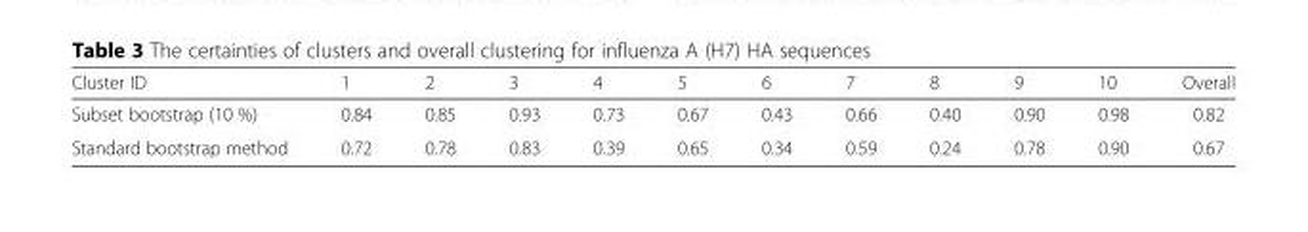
<table><thead><tr><td>Cluster ID</td><td>1</td><td>2</td><td>3</td><td>4</td><td>5</td><td>6</td><td>7</td><td>8</td><td>9</td><td>10</td><td>Overall</td></tr></thead><tbody><tr><td>Subset bootstrap (10 %)</td><td>0.84</td><td>0.85</td><td>0.93</td><td>0.73</td><td>0.67</td><td>0.43</td><td>0.66</td><td>0.40</td><td>0.90</td><td>0.98</td><td>0.82</td></tr><tr><td>Standard bootstrap method</td><td>0.72</td><td>0.78</td><td>0.83</td><td>0.39</td><td>0.65</td><td>0.34</td><td>0.59</td><td>0.24</td><td>0.78</td><td>0.90</td><td>0.67</td></tr></tbody></table>